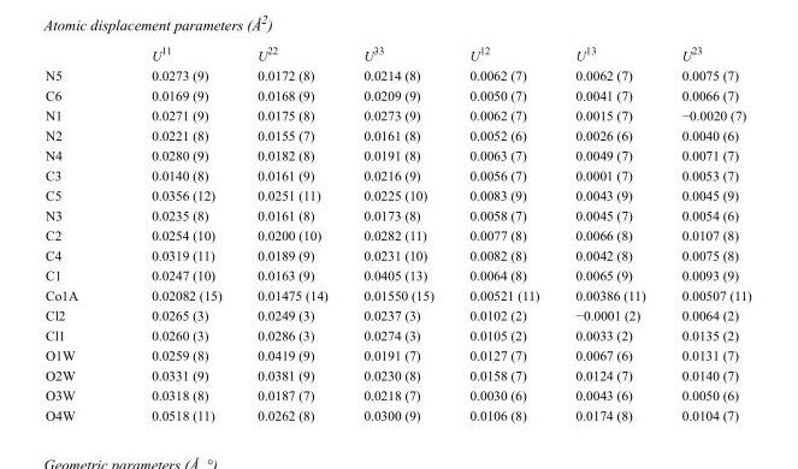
<table><thead><tr><td></td><td>U<sup>11</sup></td><td>U<sup>22</sup></td><td>U<sup>33</sup></td><td>U<sup>12</sup></td><td>U<sup>13</sup></td><td>U<sup>23</sup></td></tr></thead><tbody><tr><td>N5</td><td>0.0273 (9)</td><td>0.0172 (8)</td><td>0.0214 (8)</td><td>0.0062 (7)</td><td>0.0062 (7)</td><td>0.0075 (7)</td></tr><tr><td>C6</td><td>0.0169 (9)</td><td>0.0168 (9)</td><td>0.0209 (9)</td><td>0.0050 (7)</td><td>0.0041 (7)</td><td>0.0066 (7)</td></tr><tr><td>N1</td><td>0.0271 (9)</td><td>0.0175 (8)</td><td>0.0273 (9)</td><td>0.0062 (7)</td><td>0.0015 (7)</td><td>−0.0020 (7)</td></tr><tr><td>N2</td><td>0.0221 (8)</td><td>0.0155 (7)</td><td>0.0161 (8)</td><td>0.0052 (6)</td><td>0.0026 (6)</td><td>0.0040 (6)</td></tr><tr><td>N4</td><td>0.0280 (9)</td><td>0.0182 (8)</td><td>0.0191 (8)</td><td>0.0063 (7)</td><td>0.0049 (7)</td><td>0.0071 (7)</td></tr><tr><td>C3</td><td>0.0140 (8)</td><td>0.0161 (9)</td><td>0.0216 (9)</td><td>0.0056 (7)</td><td>0.0001 (7)</td><td>0.0053 (7)</td></tr><tr><td>C5</td><td>0.0356 (12)</td><td>0.0251 (11)</td><td>0.0225 (10)</td><td>0.0083 (9)</td><td>0.0043 (9)</td><td>0.0045 (9)</td></tr><tr><td>N3</td><td>0.0235 (8)</td><td>0.0161 (8)</td><td>0.0173 (8)</td><td>0.0058 (7)</td><td>0.0045 (7)</td><td>0.0054 (6)</td></tr><tr><td>C2</td><td>0.0254 (10)</td><td>0.0200 (10)</td><td>0.0282 (11)</td><td>0.0077 (8)</td><td>0.0066 (8)</td><td>0.0107 (8)</td></tr><tr><td>C4</td><td>0.0319 (11)</td><td>0.0189 (9)</td><td>0.0231 (10)</td><td>0.0082 (8)</td><td>0.0042 (8)</td><td>0.0075 (8)</td></tr><tr><td>C1</td><td>0.0247 (10)</td><td>0.0163 (9)</td><td>0.0405 (13)</td><td>0.0064 (8)</td><td>0.0065 (9)</td><td>0.0093 (9)</td></tr><tr><td>Co1A</td><td>0.02082 (15)</td><td>0.01475 (14)</td><td>0.01550 (15)</td><td>0.00521 (11)</td><td>0.00386 (11)</td><td>0.00507 (11)</td></tr><tr><td>Cl2</td><td>0.0265 (3)</td><td>0.0249 (3)</td><td>0.0237 (3)</td><td>0.0102 (2)</td><td>−0.0001 (2)</td><td>0.0064 (2)</td></tr><tr><td>Cl1</td><td>0.0260 (3)</td><td>0.0286 (3)</td><td>0.0274 (3)</td><td>0.0105 (2)</td><td>0.0033 (2)</td><td>0.0135 (2)</td></tr><tr><td>O1W</td><td>0.0259 (8)</td><td>0.0419 (9)</td><td>0.0191 (7)</td><td>0.0127 (7)</td><td>0.0067 (6)</td><td>0.0131 (7)</td></tr><tr><td>O2W</td><td>0.0331 (9)</td><td>0.0381 (9)</td><td>0.0230 (8)</td><td>0.0158 (7)</td><td>0.0124 (7)</td><td>0.0140 (7)</td></tr><tr><td>O3W</td><td>0.0318 (8)</td><td>0.0187 (7)</td><td>0.0218 (7)</td><td>0.0030 (6)</td><td>0.0043 (6)</td><td>0.0050 (6)</td></tr><tr><td>O4W</td><td>0.0518 (11)</td><td>0.0262 (8)</td><td>0.0300 (9)</td><td>0.0106 (8)</td><td>0.0174 (8)</td><td>0.0104 (7)</td></tr></tbody></table>